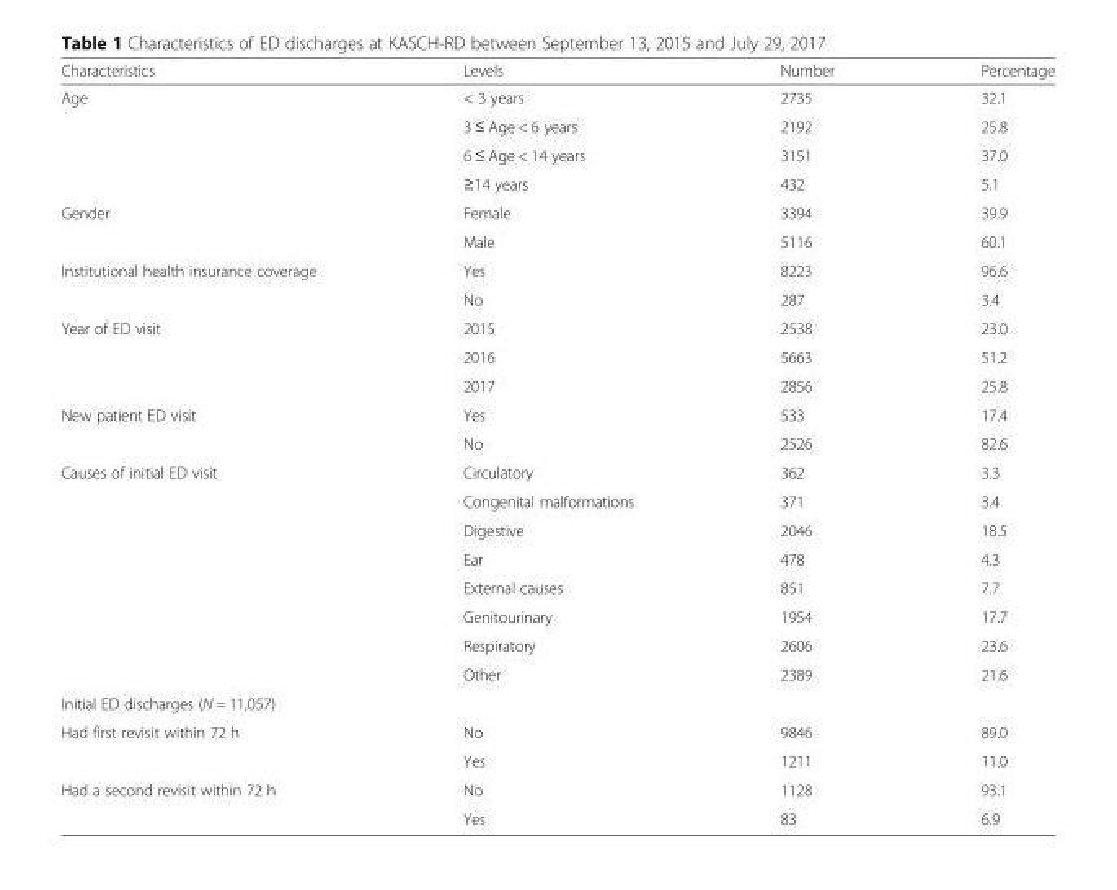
<table><thead><tr><td>Characteristics</td><td>Levels</td><td>Number</td><td>Percentage</td></tr></thead><tbody><tr><td rowspan="4">Age</td><td>&lt; 3 years</td><td>2735</td><td>32.1</td></tr><tr><td>3 ≤ Age &lt; 6 years</td><td>2192</td><td>25.8</td></tr><tr><td>6 ≤ Age &lt; 14 years</td><td>3151</td><td>37.0</td></tr><tr><td>≥14 years</td><td>432</td><td>5.1</td></tr><tr><td rowspan="2">Gender</td><td>Female</td><td>3394</td><td>39.9</td></tr><tr><td>Male</td><td>5116</td><td>60.1</td></tr><tr><td rowspan="2">Institutional health insurance coverage</td><td>Yes</td><td>8223</td><td>96.6</td></tr><tr><td>No</td><td>287</td><td>3.4</td></tr><tr><td rowspan="3">Year of ED visit</td><td>2015</td><td>2538</td><td>23.0</td></tr><tr><td>2016</td><td>5663</td><td>51.2</td></tr><tr><td>2017</td><td>2856</td><td>25.8</td></tr><tr><td rowspan="2">New patient ED visit</td><td>Yes</td><td>533</td><td>17.4</td></tr><tr><td>No</td><td>2526</td><td>82.6</td></tr><tr><td rowspan="8">Causes of initial ED visit</td><td>Circulatory</td><td>362</td><td>3.3</td></tr><tr><td>Congenital malformations</td><td>371</td><td>3.4</td></tr><tr><td>Digestive</td><td>2046</td><td>18.5</td></tr><tr><td>Ear</td><td>478</td><td>4.3</td></tr><tr><td>External causes</td><td>851</td><td>7.7</td></tr><tr><td>Genitourinary</td><td>1954</td><td>17.7</td></tr><tr><td>Respiratory</td><td>2606</td><td>23.6</td></tr><tr><td>Other</td><td>2389</td><td>21.6</td></tr><tr><td colspan="4">Initial ED discharges (N = 11,057)</td></tr><tr><td rowspan="2">Had first revisit within 72 h</td><td>No</td><td>9846</td><td>89.0</td></tr><tr><td>Yes</td><td>1211</td><td>11.0</td></tr><tr><td rowspan="2">Had a second revisit within 72 h</td><td>No</td><td>1128</td><td>93.1</td></tr><tr><td>Yes</td><td>83</td><td>6.9</td></tr></tbody></table>